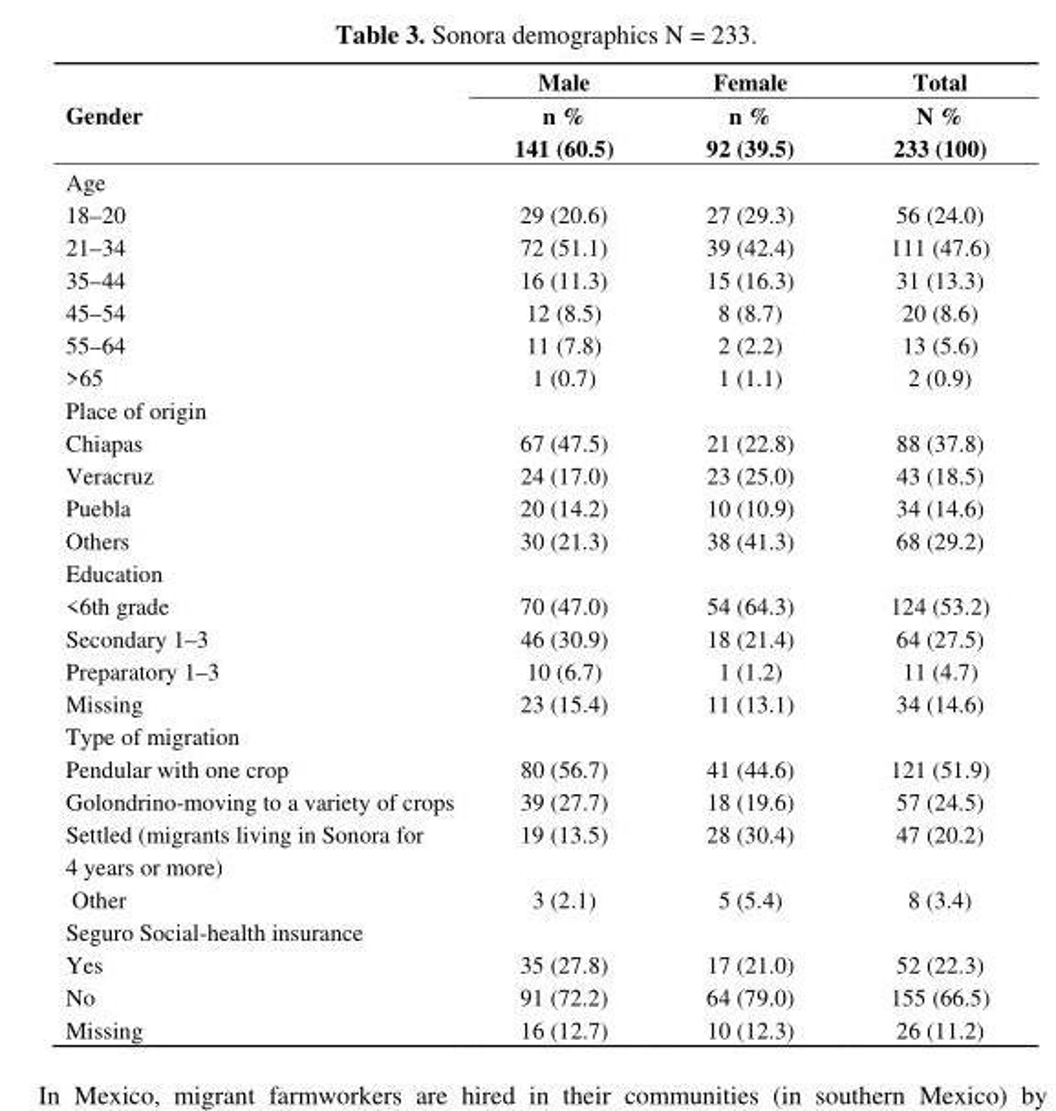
<table><thead><tr><td rowspan="2">Gender</td><td rowspan="2">Male n % 141 (60.5)</td><td rowspan="2">Female n % 92 (39.5)</td><td rowspan="2">Total N % 233 (100)</td></tr><tr></tr></thead><tbody><tr><td colspan="4">Age</td></tr><tr><td>18–20</td><td>29 (20.6)</td><td>27 (29.3)</td><td>56 (24.0)</td></tr><tr><td>21–34</td><td>72 (51.1)</td><td>39 (42.4)</td><td>111 (47.6)</td></tr><tr><td>35–44</td><td>16 (11.3)</td><td>15 (16.3)</td><td>31 (13.3)</td></tr><tr><td>45–54</td><td>12 (8.5)</td><td>8 (8.7)</td><td>20 (8.6)</td></tr><tr><td>55–64</td><td>11 (7.8)</td><td>2 (2.2)</td><td>13 (5.6)</td></tr><tr><td>&gt;65</td><td>1 (0.7)</td><td>1 (1.1)</td><td>2 (0.9)</td></tr><tr><td colspan="4">Place of origin</td></tr><tr><td>Chiapas</td><td>67 (47.5)</td><td>21 (22.8)</td><td>88 (37.8)</td></tr><tr><td>Veracruz</td><td>24 (17.0)</td><td>23 (25.0)</td><td>43 (18.5)</td></tr><tr><td>Puebla</td><td>20 (14.2)</td><td>10 (10.9)</td><td>34 (14.6)</td></tr><tr><td>Others</td><td>30 (21.3)</td><td>38 (41.3)</td><td>68 (29.2)</td></tr><tr><td colspan="4">Education</td></tr><tr><td>&lt;6th grade</td><td>70 (47.0)</td><td>54 (64.3)</td><td>124 (53.2)</td></tr><tr><td>Secondary 1–3</td><td>46 (30.9)</td><td>18 (21.4)</td><td>64 (27.5)</td></tr><tr><td>Preparatory 1–3</td><td>10 (6.7)</td><td>1 (1.2)</td><td>11 (4.7)</td></tr><tr><td>Missing</td><td>23 (15.4)</td><td>11 (13.1)</td><td>34 (14.6)</td></tr><tr><td colspan="4">Type of migration</td></tr><tr><td>Pendular with one crop</td><td>80 (56.7)</td><td>41 (44.6)</td><td>121 (51.9)</td></tr><tr><td>Golondrino-moving to a variety of crops</td><td>39 (27.7)</td><td>18 (19.6)</td><td>57 (24.5)</td></tr><tr><td>Settled (migrants living in Sonora for 4 years or more)</td><td>19 (13.5)</td><td>28 (30.4)</td><td>47 (20.2)</td></tr><tr><td>Other</td><td>3 (2.1)</td><td>5 (5.4)</td><td>8 (3.4)</td></tr><tr><td colspan="4">Seguro Social-health insurance</td></tr><tr><td>Yes</td><td>35 (27.8)</td><td>17 (21.0)</td><td>52 (22.3)</td></tr><tr><td>No</td><td>91 (72.2)</td><td>64 (79.0)</td><td>155 (66.5)</td></tr><tr><td>Missing</td><td>16 (12.7)</td><td>10 (12.3)</td><td>26 (11.2)</td></tr></tbody></table>